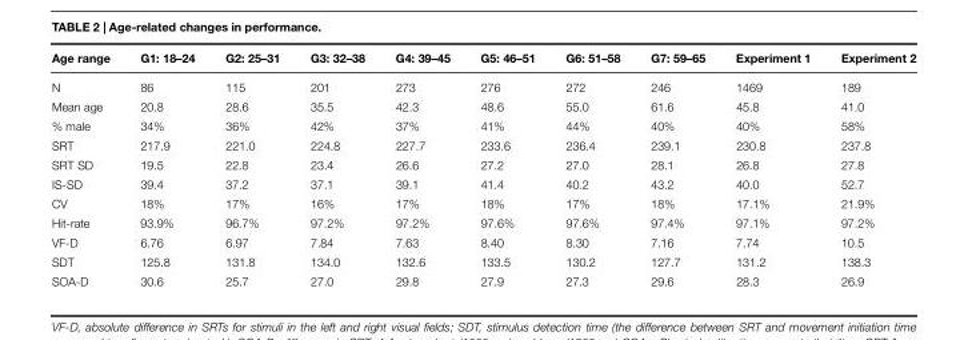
<table><thead><tr><td>Age range</td><td>G1: 18–24</td><td>G2: 25–31</td><td>G3: 32–38</td><td>G4: 39–45</td><td>G5: 46–51</td><td>G6: 51–58</td><td>G7: 59–65</td><td>Experiment 1</td><td>Experiment 2</td></tr></thead><tbody><tr><td>N</td><td>86</td><td>115</td><td>201</td><td>273</td><td>276</td><td>272</td><td>246</td><td>1469</td><td>189</td></tr><tr><td>Mean age</td><td>20.8</td><td>28.6</td><td>35.5</td><td>42.3</td><td>48.6</td><td>55.0</td><td>61.6</td><td>45.8</td><td>41.0</td></tr><tr><td>% male</td><td>34%</td><td>36%</td><td>42%</td><td>37%</td><td>41%</td><td>44%</td><td>40%</td><td>40%</td><td>58%</td></tr><tr><td>SRT</td><td>217.9</td><td>221.0</td><td>224.8</td><td>227.7</td><td>233.6</td><td>236.4</td><td>239.1</td><td>230.8</td><td>237.8</td></tr><tr><td>SRT SD</td><td>19.5</td><td>22.8</td><td>23.4</td><td>26.6</td><td>27.2</td><td>27.0</td><td>28.1</td><td>26.8</td><td>27.8</td></tr><tr><td>IS-SD</td><td>39.4</td><td>37.2</td><td>37.1</td><td>39.1</td><td>41.4</td><td>40.2</td><td>43.2</td><td>40.0</td><td>52.7</td></tr><tr><td>CV</td><td>18%</td><td>17%</td><td>16%</td><td>17%</td><td>18%</td><td>17%</td><td>18%</td><td>17.1%</td><td>21.9%</td></tr><tr><td>Hit-rate</td><td>93.9%</td><td>96.7%</td><td>97.2%</td><td>97.2%</td><td>97.6%</td><td>97.6%</td><td>97.4%</td><td>97.1%</td><td>97.2%</td></tr><tr><td>VF-D</td><td>6.76</td><td>6.97</td><td>7.84</td><td>7.63</td><td>8.40</td><td>8.30</td><td>7.16</td><td>7.74</td><td>10.5</td></tr><tr><td>SDT</td><td>125.8</td><td>131.8</td><td>134.0</td><td>132.6</td><td>133.5</td><td>130.2</td><td>127.7</td><td>131.2</td><td>138.3</td></tr><tr><td>SOA-D</td><td>30.6</td><td>25.7</td><td>27.0</td><td>29.8</td><td>27.9</td><td>27.3</td><td>29.6</td><td>28.3</td><td>26.9</td></tr></tbody></table>